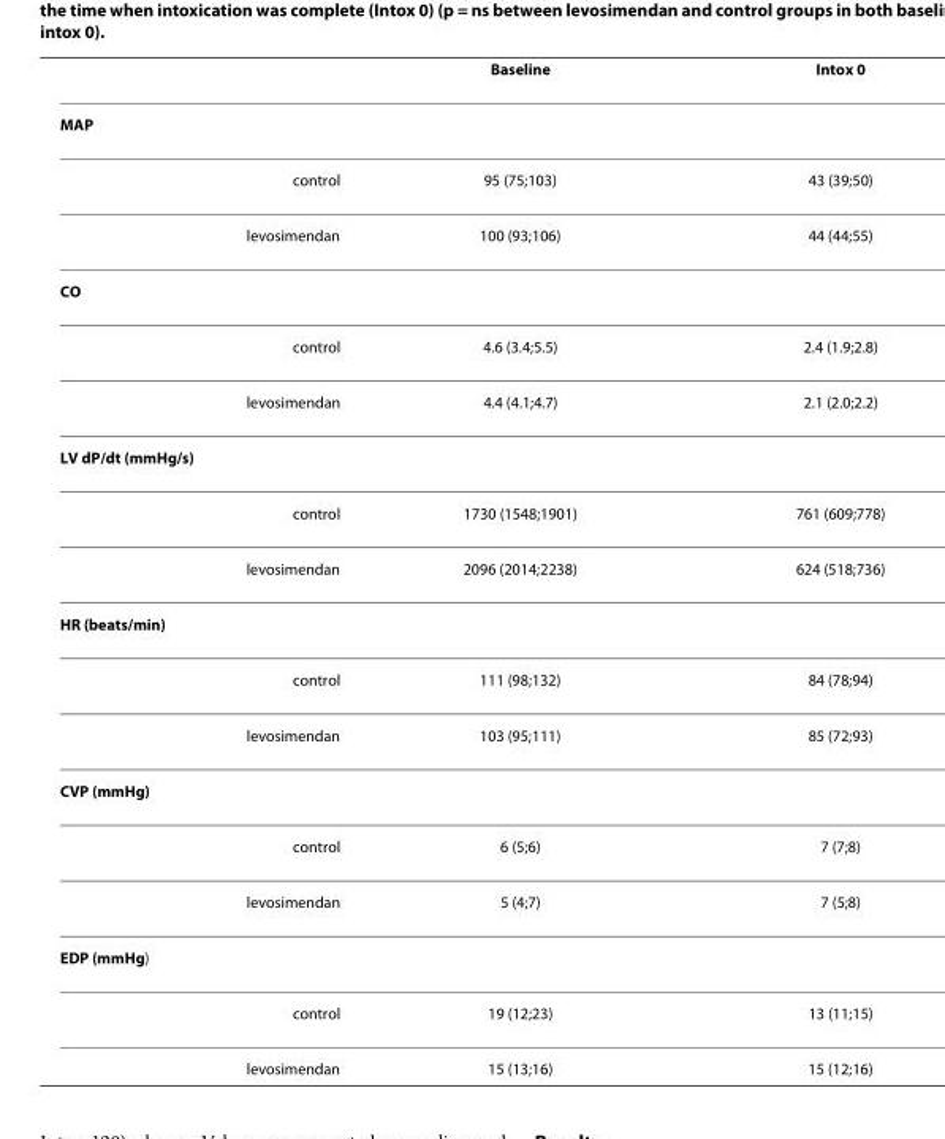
<table><thead><tr><td></td><td>Baseline</td><td>Intox 0</td></tr></thead><tbody><tr><td colspan="3">MAP</td></tr><tr><td>control</td><td>95 (75;103)</td><td>43 (39;50)</td></tr><tr><td>levosimendan</td><td>100 (93;106)</td><td>44 (44;55)</td></tr><tr><td colspan="3">CO</td></tr><tr><td>control</td><td>4.6 (3.4;5.5)</td><td>2.4 (1.9;2.8)</td></tr><tr><td>levosimendan</td><td>4.4 (4.1;4.7)</td><td>2.1 (2.0;2.2)</td></tr><tr><td colspan="3">LV dP/dt (mmHg/s)</td></tr><tr><td>control</td><td>1730 (1548;1901)</td><td>761 (609;778)</td></tr><tr><td>levosimendan</td><td>2096 (2014;2238)</td><td>624 (518;736)</td></tr><tr><td colspan="3">HR (beats/min)</td></tr><tr><td>control</td><td>111 (98;132)</td><td>84 (78;94)</td></tr><tr><td>levosimendan</td><td>103 (95;111)</td><td>85 (72;93)</td></tr><tr><td colspan="3">CVP (mmHg)</td></tr><tr><td>control</td><td>6 (5;6)</td><td>7 (7;8)</td></tr><tr><td>levosimendan</td><td>5 (4;7)</td><td>7 (5;8)</td></tr><tr><td colspan="3">EDP (mmHg)</td></tr><tr><td>control</td><td>19 (12;23)</td><td>13 (11;15)</td></tr><tr><td>levosimendan</td><td>15 (13;16)</td><td>15 (12;16)</td></tr></tbody></table>